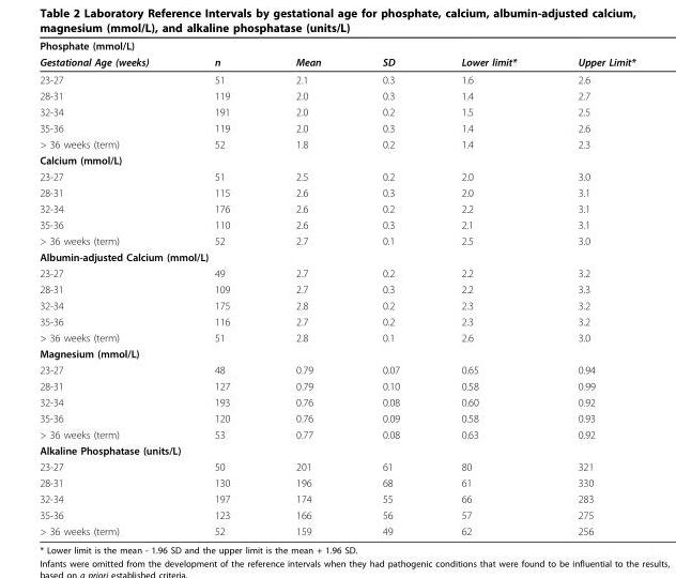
<table><thead><tr><td rowspan="2">Phosphate (mmol/L) Gestational Age (weeks)</td><td rowspan="2">n</td><td rowspan="2">Mean</td><td rowspan="2">SD</td><td rowspan="2">Lower limit*</td><td rowspan="2">Upper Limit*</td></tr><tr></tr></thead><tbody><tr><td>23-27</td><td>51</td><td>2.1</td><td>0.3</td><td>1.6</td><td>2.6</td></tr><tr><td>28-31</td><td>119</td><td>2.0</td><td>0.3</td><td>1.4</td><td>2.7</td></tr><tr><td>32-34</td><td>191</td><td>2.0</td><td>0.2</td><td>1.5</td><td>2.5</td></tr><tr><td>35-36</td><td>119</td><td>2.0</td><td>0.3</td><td>1.4</td><td>2.6</td></tr><tr><td>&gt; 36 weeks (term)</td><td>52</td><td>1.8</td><td>0.2</td><td>1.4</td><td>2.3</td></tr><tr><td colspan="6">Calcium (mmol/L)</td></tr><tr><td>23-27</td><td>51</td><td>2.5</td><td>0.2</td><td>2.0</td><td>3.0</td></tr><tr><td>28-31</td><td>115</td><td>2.6</td><td>0.3</td><td>2.0</td><td>3.1</td></tr><tr><td>32-34</td><td>176</td><td>2.6</td><td>0.2</td><td>2.2</td><td>3.1</td></tr><tr><td>35-36</td><td>110</td><td>2.6</td><td>0.3</td><td>2.1</td><td>3.1</td></tr><tr><td>&gt; 36 weeks (term)</td><td>52</td><td>2.7</td><td>0.1</td><td>2.5</td><td>3.0</td></tr><tr><td colspan="6">Albumin-adjusted Calcium (mmol/L)</td></tr><tr><td>23-27</td><td>49</td><td>2.7</td><td>0.2</td><td>2.2</td><td>3.2</td></tr><tr><td>28-31</td><td>109</td><td>2.7</td><td>0.3</td><td>2.2</td><td>3.3</td></tr><tr><td>32-34</td><td>175</td><td>2.8</td><td>0.2</td><td>2.3</td><td>3.2</td></tr><tr><td>35-36</td><td>116</td><td>2.7</td><td>0.2</td><td>2.3</td><td>3.2</td></tr><tr><td>&gt; 36 weeks (term)</td><td>51</td><td>2.8</td><td>0.1</td><td>2.6</td><td>3.0</td></tr><tr><td colspan="6">Magnesium (mmol/L)</td></tr><tr><td>23-27</td><td>48</td><td>0.79</td><td>0.07</td><td>0.65</td><td>0.94</td></tr><tr><td>28-31</td><td>127</td><td>0.79</td><td>0.10</td><td>0.58</td><td>0.99</td></tr><tr><td>32-34</td><td>193</td><td>0.76</td><td>0.08</td><td>0.60</td><td>0.92</td></tr><tr><td>35-36</td><td>120</td><td>0.76</td><td>0.09</td><td>0.58</td><td>0.93</td></tr><tr><td>&gt; 36 weeks (term)</td><td>53</td><td>0.77</td><td>0.08</td><td>0.63</td><td>0.92</td></tr><tr><td colspan="6">Alkaline Phosphatase (units/L)</td></tr><tr><td>23-27</td><td>50</td><td>201</td><td>61</td><td>80</td><td>321</td></tr><tr><td>28-31</td><td>130</td><td>196</td><td>68</td><td>61</td><td>330</td></tr><tr><td>32-34</td><td>197</td><td>174</td><td>55</td><td>66</td><td>283</td></tr><tr><td>35-36</td><td>123</td><td>166</td><td>56</td><td>57</td><td>275</td></tr><tr><td>&gt; 36 weeks (term)</td><td>52</td><td>159</td><td>49</td><td>62</td><td>256</td></tr></tbody></table>